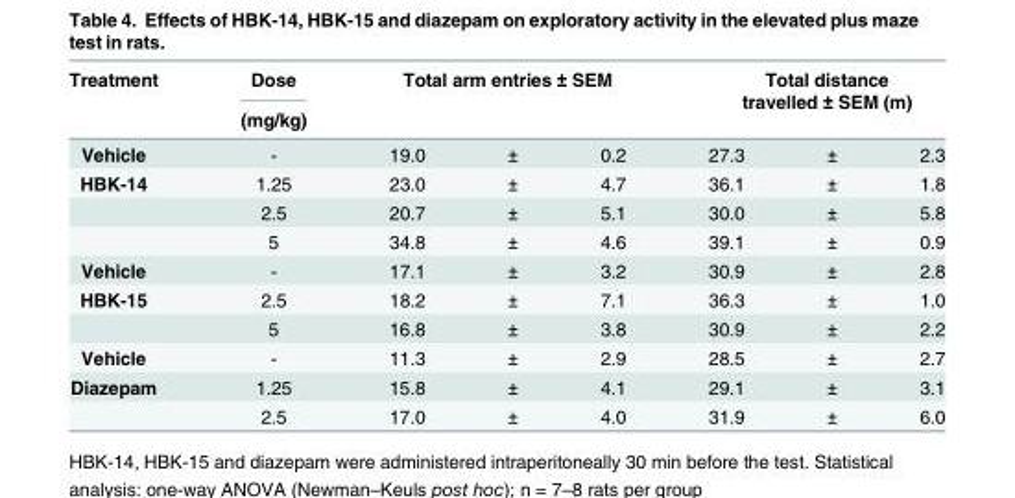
<table><thead><tr><td rowspan="3">Treatment Vehicle</td><td rowspan="3">Dose (mg/kg) -</td><td rowspan="2" colspan="3">Total arm entries ± SEM</td><td rowspan="2" colspan="3">Total distance travelled ± SEM (m)</td></tr><tr></tr><tr><td>19.0</td><td>±</td><td>0.2</td><td>27.3</td><td>±</td><td>2.3</td></tr></thead><tbody><tr><td rowspan="3">HBK-14</td><td>1.25</td><td>23.0</td><td>±</td><td>4.7</td><td>36.1</td><td>±</td><td>1.8</td></tr><tr><td>2.5</td><td>20.7</td><td>±</td><td>5.1</td><td>30.0</td><td>±</td><td>5.8</td></tr><tr><td>5</td><td>34.8</td><td>±</td><td>4.6</td><td>39.1</td><td>±</td><td>0.9</td></tr><tr><td>Vehicle</td><td>-</td><td>17.1</td><td>±</td><td>3.2</td><td>30.9</td><td>±</td><td>2.8</td></tr><tr><td rowspan="2">HBK-15</td><td>2.5</td><td>18.2</td><td>±</td><td>7.1</td><td>36.3</td><td>±</td><td>1.0</td></tr><tr><td>5</td><td>16.8</td><td>±</td><td>3.8</td><td>30.9</td><td>±</td><td>2.2</td></tr><tr><td>Vehicle</td><td>-</td><td>11.3</td><td>±</td><td>2.9</td><td>28.5</td><td>±</td><td>2.7</td></tr><tr><td rowspan="2">Diazepam</td><td>1.25</td><td>15.8</td><td>±</td><td>4.1</td><td>29.1</td><td>±</td><td>3.1</td></tr><tr><td>2.5</td><td>17.0</td><td>±</td><td>4.0</td><td>31.9</td><td>±</td><td>6.0</td></tr></tbody></table>